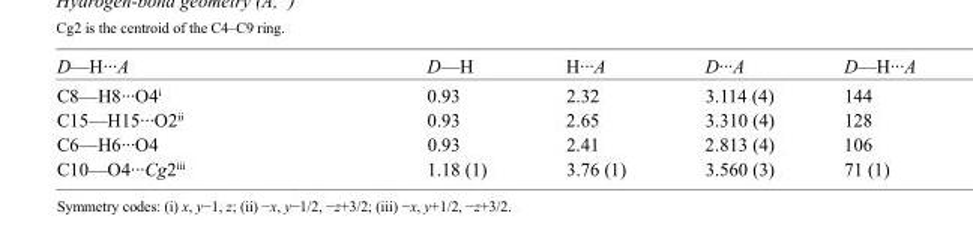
<table><tbody><tr><td>D—H···A</td><td>D—H</td><td>H···A</td><td>D···A</td><td>D—H···A</td></tr><tr><td>C8—H8···O4<sup>i</sup></td><td>0.93</td><td>2.32</td><td>3.114 (4)</td><td>144</td></tr><tr><td>C15—H15···O2<sup>ii</sup></td><td>0.93</td><td>2.65</td><td>3.310 (4)</td><td>128</td></tr><tr><td>C6—H6···O4</td><td>0.93</td><td>2.41</td><td>2.813 (4)</td><td>106</td></tr><tr><td>C10—O4···Cg2<sup>iii</sup></td><td>1.18 (1)</td><td>3.76 (1)</td><td>3.560 (3)</td><td>71 (1)</td></tr></tbody></table>